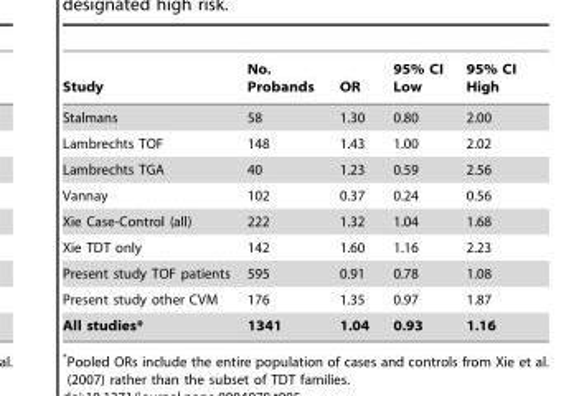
<table><thead><tr><td>Study</td><td>No. Probands</td><td>OR</td><td>95% CI Low</td><td>95% CI High</td></tr></thead><tbody><tr><td>Stalmans</td><td>58</td><td>1.30</td><td>0.80</td><td>2.00</td></tr><tr><td>Lambrechts TOF</td><td>148</td><td>1.43</td><td>1.00</td><td>2.02</td></tr><tr><td>Lambrechts TGA</td><td>40</td><td>1.23</td><td>0.59</td><td>2.56</td></tr><tr><td>Vannay</td><td>102</td><td>0.37</td><td>0.24</td><td>0.56</td></tr><tr><td>Xie Case-Control (all)</td><td>222</td><td>1.32</td><td>1.04</td><td>1.68</td></tr><tr><td>Xie TDT only</td><td>142</td><td>1.60</td><td>1.16</td><td>2.23</td></tr><tr><td>Present study TOF patients</td><td>595</td><td>0.91</td><td>0.78</td><td>1.08</td></tr><tr><td>Present study other CVM</td><td>176</td><td>1.35</td><td>0.97</td><td>1.87</td></tr><tr><td>All studies*</td><td>1341</td><td>1.04</td><td>0.93</td><td>1.16</td></tr></tbody></table>